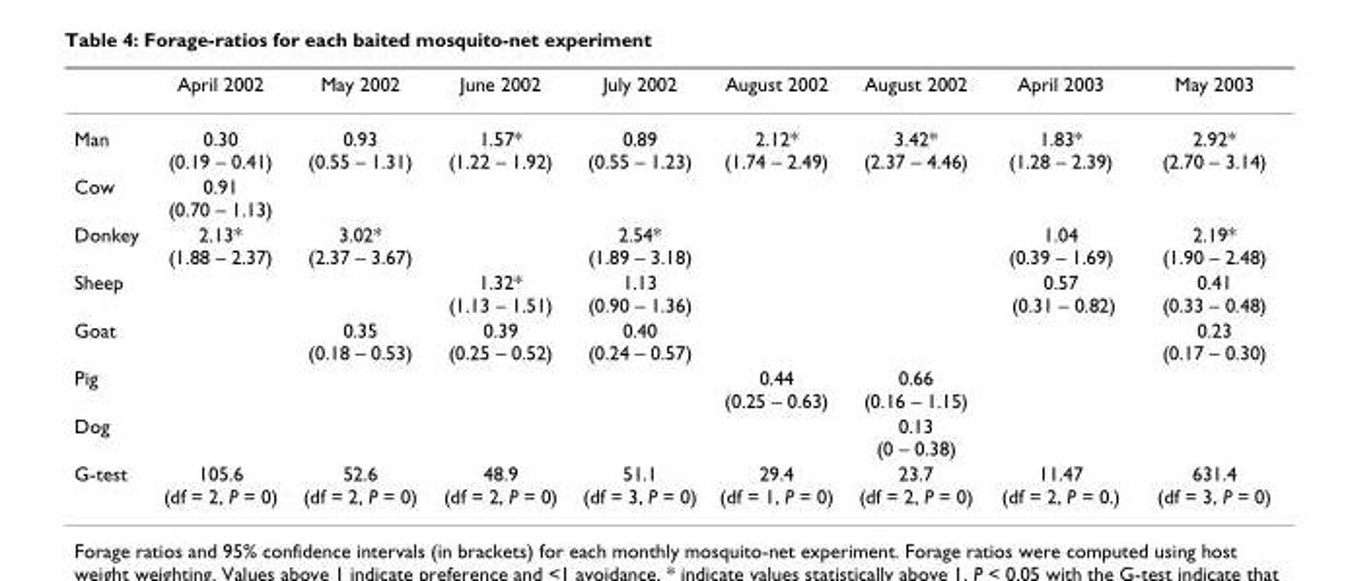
<table><thead><tr><td></td><td>April 2002</td><td>May 2002</td><td>June 2002</td><td>July 2002</td><td>August 2002</td><td>August 2002</td><td>April 2003</td><td>May 2003</td></tr></thead><tbody><tr><td>Man</td><td>0.30 (0.19 – 0.41)</td><td>0.93 (0.55 – 1.31)</td><td>1.57* (1.22 – 1.92)</td><td>0.89 (0.55 – 1.23)</td><td>2.12* (1.74 – 2.49)</td><td>3.42* (2.37 – 4.46)</td><td>1.83* (1.28 – 2.39)</td><td>2.92* (2.70 – 3.14)</td></tr><tr><td>Cow</td><td>0.91 (0.70 – 1.13)</td><td></td><td></td><td></td><td></td><td></td><td></td><td></td></tr><tr><td>Donkey</td><td>2.13* (1.88 – 2.37)</td><td>3.02* (2.37 – 3.67)</td><td></td><td>2.54* (1.89 – 3.18)</td><td></td><td></td><td>1.04 (0.39 – 1.69)</td><td>2.19* (1.90 – 2.48)</td></tr><tr><td>Sheep</td><td></td><td></td><td>1.32* (1.13 – 1.51)</td><td>1.13 (0.90 – 1.36)</td><td></td><td></td><td>0.57 (0.31 – 0.82)</td><td>0.41 (0.33 – 0.48)</td></tr><tr><td>Goat</td><td></td><td>0.35 (0.18 – 0.53)</td><td>0.39 (0.25 – 0.52)</td><td>0.40 (0.24 – 0.57)</td><td></td><td></td><td></td><td>0.23 (0.17 – 0.30)</td></tr><tr><td>Pig</td><td></td><td></td><td></td><td></td><td>0.44 (0.25 – 0.63)</td><td>0.66 (0.16 – 1.15)</td><td></td><td></td></tr><tr><td>Dog</td><td></td><td></td><td></td><td></td><td></td><td>0.13 (0 – 0.38)</td><td></td><td></td></tr><tr><td>G-test</td><td>105.6 (df = 2, P = 0)</td><td>52.6 (df = 2, P = 0)</td><td>48.9 (df = 2, P = 0)</td><td>51.1 (df = 3, P = 0)</td><td>29.4 (df = 1, P = 0)</td><td>23.7 (df = 2, P = 0)</td><td>11.47 (df = 2, P = 0.)</td><td>631.4 (df = 3, P = 0)</td></tr></tbody></table>